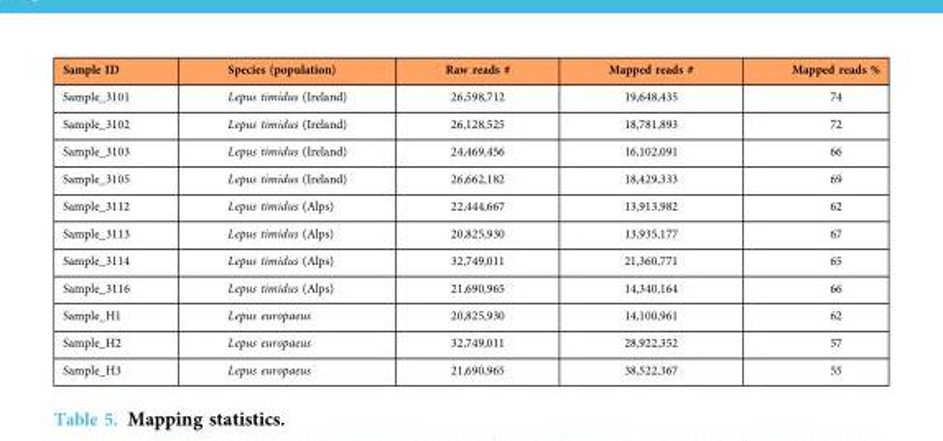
<table><thead><tr><td>Sample ID</td><td>Species (population)</td><td>Raw reads #</td><td>Mapped reads #</td><td>Mapped reads %</td></tr></thead><tbody><tr><td>Sample_3101</td><td>Lepus timidus (Ireland)</td><td>26,598,712</td><td>19,648,435</td><td>74</td></tr><tr><td>Sample_3102</td><td>Lepus timidus (Ireland)</td><td>26,128,525</td><td>18,781,893</td><td>72</td></tr><tr><td>Sample_3103</td><td>Lepus timidus (Ireland)</td><td>24,469,456</td><td>16,102,091</td><td>66</td></tr><tr><td>Sample_3105</td><td>Lepus timidus (Ireland)</td><td>26,662,182</td><td>18,429,333</td><td>69</td></tr><tr><td>Sample_3112</td><td>Lepus timidus (Alps)</td><td>22,444,667</td><td>13,913,982</td><td>62</td></tr><tr><td>Sample_3113</td><td>Lepus timidus (Alps)</td><td>20,825,930</td><td>13,935,177</td><td>67</td></tr><tr><td>Sample_3114</td><td>Lepus timidus (Alps)</td><td>32,749,011</td><td>21,360,771</td><td>65</td></tr><tr><td>Sample_3116</td><td>Lepus timidus (Alps)</td><td>21,690,965</td><td>14,340,164</td><td>66</td></tr><tr><td>Sample_H1</td><td>Lepus europaeus</td><td>20,825,930</td><td>14,100,961</td><td>62</td></tr><tr><td>Sample_H2</td><td>Lepus europaeus</td><td>32,749,011</td><td>28,922,352</td><td>57</td></tr><tr><td>Sample_H3</td><td>Lepus europaeus</td><td>21,690,965</td><td>38,522,367</td><td>55</td></tr></tbody></table>